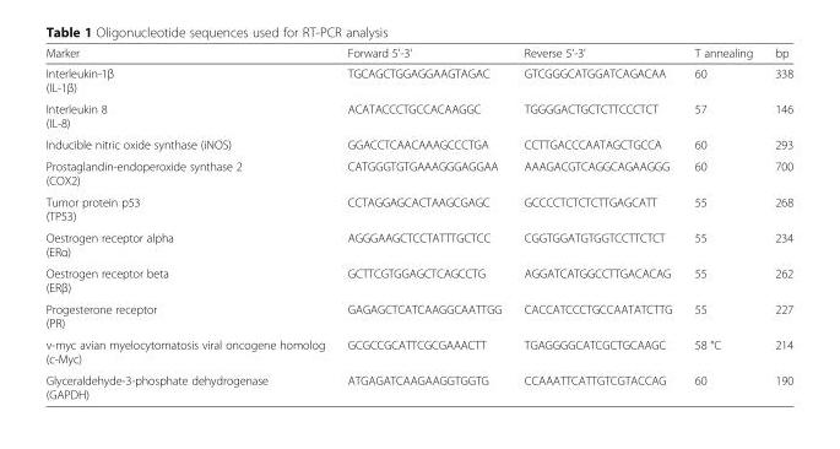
<table><thead><tr><td>Marker</td><td>Forward 5&#x27;-3&#x27;</td><td>Reverse 5&#x27;-3&#x27;</td><td>T annealing</td><td>bp</td></tr></thead><tbody><tr><td>Interleukin-1β (IL-1β)</td><td>TGCAGCTGGAGGAAGTAGAC</td><td>GTCGGGCATGGATCAGACAA</td><td>60</td><td>338</td></tr><tr><td>Interleukin 8 (IL-8)</td><td>ACATACCCTGCCACAAGGC</td><td>TGGGGACTGCTCTTCCCTCT</td><td>57</td><td>146</td></tr><tr><td>Inducible nitric oxide synthase (iNOS)</td><td>GGACCTCAACAAAGCCCTGA</td><td>CCTTGACCCAATAGCTGCCA</td><td>60</td><td>293</td></tr><tr><td>Prostaglandin-endoperoxide synthase 2 (COX2)</td><td>CATGGGTGTGAAAGGGAGGAA</td><td>AAAGACGTCAGGCAGAAGGG</td><td>60</td><td>700</td></tr><tr><td>Tumor protein p53 (TP53)</td><td>CCTAGGAGCACTAAGCGAGC</td><td>GCCCCTCTCTCTTGAGCATT</td><td>55</td><td>268</td></tr><tr><td>Oestrogen receptor alpha (ERα)</td><td>AGGGAAGCTCCTATTTGCTCC</td><td>CGGTGGATGTGGTCCTTCTCT</td><td>55</td><td>234</td></tr><tr><td>Oestrogen receptor beta (ERβ)</td><td>GCTTCGTGGAGCTCAGCCTG</td><td>AGGATCATGGCCTTGACACAG</td><td>55</td><td>262</td></tr><tr><td>Progesterone receptor (PR)</td><td>GAGAGCTCATCAAGGCAATTGG</td><td>CACCATCCCTGCCAATATCTTG</td><td>55</td><td>227</td></tr><tr><td>v-myc avian myelocytomatosis viral oncogene homolog (c-Myc)</td><td>GCGCCGCATTCGCGAAACTT</td><td>TGAGGGGCATCGCTGCAAGC</td><td>58 °C</td><td>214</td></tr><tr><td>Glyceraldehyde-3-phosphate dehydrogenase (GAPDH)</td><td>ATGAGATCAAGAAGGTGGTG</td><td>CCAAATTCATTGTCGTACCAG</td><td>60</td><td>190</td></tr></tbody></table>